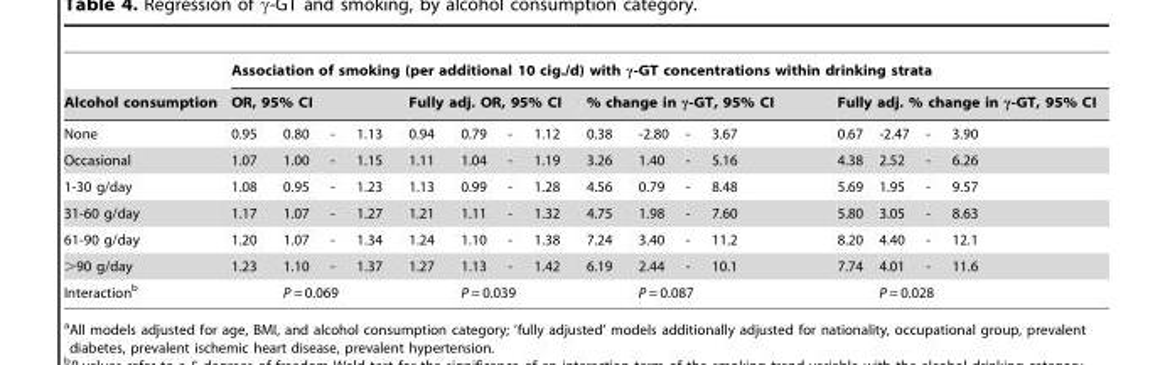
<table><thead><tr><td rowspan="3">Alcohol consumption None</td><td colspan="16">Association of smoking (per additional 10 cig./d) with γ-GT concentrations within drinking strata</td></tr><tr><td colspan="4">OR, 95% CI</td><td colspan="4">Fully adj. OR, 95% CI</td><td colspan="4">% change in γ-GT, 95% CI</td><td colspan="4">Fully adj. % change in γ-GT, 95% CI</td></tr><tr><td>0.95</td><td>0.80</td><td>-</td><td>1.13</td><td>0.94</td><td>0.79</td><td>-</td><td>1.12</td><td>0.38</td><td>-2.80</td><td>-</td><td>3.67</td><td>0.67</td><td>-2.47</td><td>-</td><td>3.90</td></tr></thead><tbody><tr><td>Occasional</td><td>1.07</td><td>1.00</td><td>-</td><td>1.15</td><td>1.11</td><td>1.04</td><td>-</td><td>1.19</td><td>3.26</td><td>1.40</td><td>-</td><td>5.16</td><td>4.38</td><td>2.52</td><td>-</td><td>6.26</td></tr><tr><td>1-30 g/day</td><td>1.08</td><td>0.95</td><td>-</td><td>1.23</td><td>1.13</td><td>0.99</td><td>-</td><td>1.28</td><td>4.56</td><td>0.79</td><td>-</td><td>8.48</td><td>5.69</td><td>1.95</td><td>-</td><td>9.57</td></tr><tr><td>31-60 g/day</td><td>1.17</td><td>1.07</td><td>-</td><td>1.27</td><td>1.21</td><td>1.11</td><td>-</td><td>1.32</td><td>4.75</td><td>1.98</td><td>-</td><td>7.60</td><td>5.80</td><td>3.05</td><td>-</td><td>8.63</td></tr><tr><td>61-90 g/day</td><td>1.20</td><td>1.07</td><td>-</td><td>1.34</td><td>1.24</td><td>1.10</td><td>-</td><td>1.38</td><td>7.24</td><td>3.40</td><td>-</td><td>11.2</td><td>8.20</td><td>4.40</td><td>-</td><td>12.1</td></tr><tr><td>&gt;90 g/day</td><td>1.23</td><td>1.10</td><td>-</td><td>1.37</td><td>1.27</td><td>1.13</td><td>-</td><td>1.42</td><td>6.19</td><td>2.44</td><td>-</td><td>10.1</td><td>7.74</td><td>4.01</td><td>-</td><td>11.6</td></tr><tr><td>Interaction<sup>b</sup></td><td></td><td colspan="3">P = 0.069</td><td></td><td colspan="3">P = 0.039</td><td></td><td colspan="3">P = 0.087</td><td></td><td colspan="3">P = 0.028</td></tr></tbody></table>